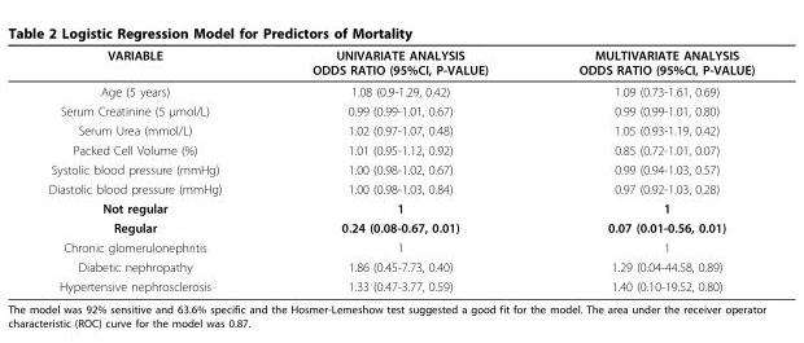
<table><thead><tr><td>VARIABLE</td><td>UNIVARIATE ANALYSIS ODDS RATIO (95%CI, P-VALUE)</td><td>MULTIVARIATE ANALYSIS ODDS RATIO (95%CI, P-VALUE)</td></tr></thead><tbody><tr><td>Age (5 years)</td><td>1.08 (0.9-1.29, 0.42)</td><td>1.09 (0.73-1.61, 0.69)</td></tr><tr><td>Serum Creatinine (5 μmol/L)</td><td>0.99 (0.99-1.01, 0.67)</td><td>0.99 (0.99-1.01, 0.80)</td></tr><tr><td>Serum Urea (mmol/L)</td><td>1.02 (0.97-1.07, 0.48)</td><td>1.05 (0.93-1.19, 0.42)</td></tr><tr><td>Packed Cell Volume (%)</td><td>1.01 (0.95-1.12, 0.92)</td><td>0.85 (0.72-1.01, 0.07)</td></tr><tr><td>Systolic blood pressure (mmHg)</td><td>1.00 (0.98-1.02, 0.67)</td><td>0.99 (0.94-1.03, 0.57)</td></tr><tr><td>Diastolic blood pressure (mmHg)</td><td>1.00 (0.98-1.03, 0.84)</td><td>0.97 (0.92-1.03, 0.28)</td></tr><tr><td>Not regular</td><td>1</td><td>1</td></tr><tr><td>Regular</td><td>0.24 (0.08-0.67, 0.01)</td><td>0.07 (0.01-0.56, 0.01)</td></tr><tr><td>Chronic glomerulonephritis</td><td>1</td><td>1</td></tr><tr><td>Diabetic nephropathy</td><td>1.86 (0.45-7.73, 0.40)</td><td>1.29 (0.04-44.58, 0.89)</td></tr><tr><td>Hypertensive nephrosclerosis</td><td>1.33 (0.47-3.77, 0.59)</td><td>1.40 (0.10-19.52, 0.80)</td></tr></tbody></table>